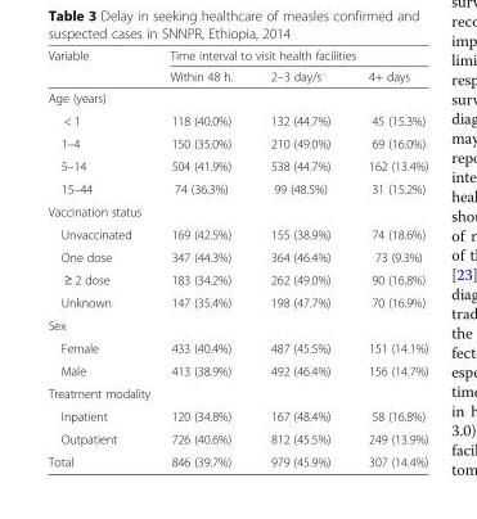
<table><thead><tr><td rowspan="2">Variable</td><td colspan="3">Time interval to visit health facilities</td></tr><tr><td>Within 48 h.</td><td>2–3 day/s</td><td>4+ days</td></tr></thead><tbody><tr><td colspan="4">Age (years)</td></tr><tr><td>&lt; 1</td><td>118 (40.0%)</td><td>132 (44.7%)</td><td>45 (15.3%)</td></tr><tr><td>1–4</td><td>150 (35.0%)</td><td>210 (49.0%)</td><td>69 (16.0%)</td></tr><tr><td>5–14</td><td>504 (41.9%)</td><td>538 (44.7%)</td><td>162 (13.4%)</td></tr><tr><td>15–44</td><td>74 (36.3%)</td><td>99 (48.5%)</td><td>31 (15.2%)</td></tr><tr><td colspan="4">Vaccination status</td></tr><tr><td>Unvaccinated</td><td>169 (42.5%)</td><td>155 (38.9%)</td><td>74 (18.6%)</td></tr><tr><td>One dose</td><td>347 (44.3%)</td><td>364 (46.4%)</td><td>73 (9.3%)</td></tr><tr><td>≥ 2 dose</td><td>183 (34.2%)</td><td>262 (49.0%)</td><td>90 (16.8%)</td></tr><tr><td>Unknown</td><td>147 (35.4%)</td><td>198 (47.7%)</td><td>70 (16.9%)</td></tr><tr><td colspan="4">Sex</td></tr><tr><td>Female</td><td>433 (40.4%)</td><td>487 (45.5%)</td><td>151 (14.1%)</td></tr><tr><td>Male</td><td>413 (38.9%)</td><td>492 (46.4%)</td><td>156 (14.7%)</td></tr><tr><td colspan="4">Treatment modality</td></tr><tr><td>Inpatient</td><td>120 (34.8%)</td><td>167 (48.4%)</td><td>58 (16.8%)</td></tr><tr><td>Outpatient</td><td>726 (40.6%)</td><td>812 (45.5%)</td><td>249 (13.9%)</td></tr><tr><td>Total</td><td>846 (39.7%)</td><td>979 (45.9%)</td><td>307 (14.4%)</td></tr></tbody></table>